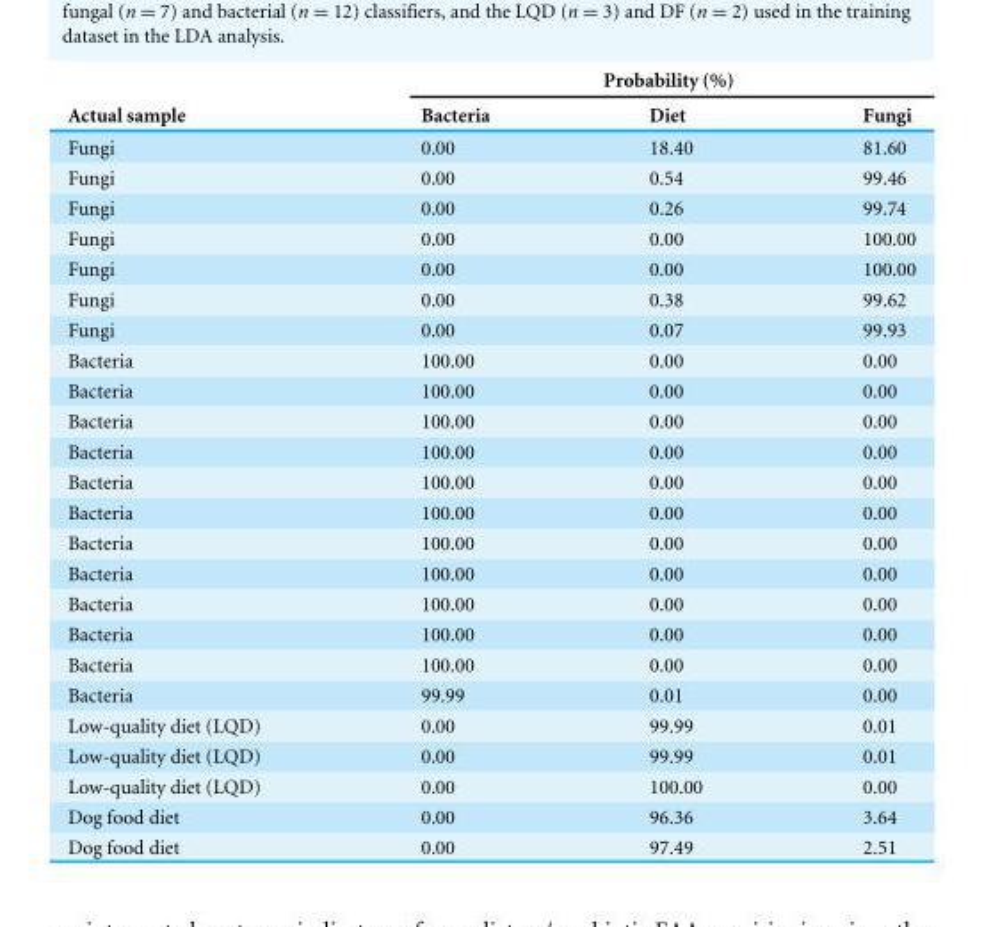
<table><thead><tr><td rowspan="2">Actual sample</td><td colspan="3">Probability (%)</td></tr><tr><td>Bacteria</td><td>Diet</td><td>Fungi</td></tr></thead><tbody><tr><td>Fungi</td><td>0.00</td><td>18.40</td><td>81.60</td></tr><tr><td>Fungi</td><td>0.00</td><td>0.54</td><td>99.46</td></tr><tr><td>Fungi</td><td>0.00</td><td>0.26</td><td>99.74</td></tr><tr><td>Fungi</td><td>0.00</td><td>0.00</td><td>100.00</td></tr><tr><td>Fungi</td><td>0.00</td><td>0.00</td><td>100.00</td></tr><tr><td>Fungi</td><td>0.00</td><td>0.38</td><td>99.62</td></tr><tr><td>Fungi</td><td>0.00</td><td>0.07</td><td>99.93</td></tr><tr><td>Bacteria</td><td>100.00</td><td>0.00</td><td>0.00</td></tr><tr><td>Bacteria</td><td>100.00</td><td>0.00</td><td>0.00</td></tr><tr><td>Bacteria</td><td>100.00</td><td>0.00</td><td>0.00</td></tr><tr><td>Bacteria</td><td>100.00</td><td>0.00</td><td>0.00</td></tr><tr><td>Bacteria</td><td>100.00</td><td>0.00</td><td>0.00</td></tr><tr><td>Bacteria</td><td>100.00</td><td>0.00</td><td>0.00</td></tr><tr><td>Bacteria</td><td>100.00</td><td>0.00</td><td>0.00</td></tr><tr><td>Bacteria</td><td>100.00</td><td>0.00</td><td>0.00</td></tr><tr><td>Bacteria</td><td>100.00</td><td>0.00</td><td>0.00</td></tr><tr><td>Bacteria</td><td>100.00</td><td>0.00</td><td>0.00</td></tr><tr><td>Bacteria</td><td>100.00</td><td>0.00</td><td>0.00</td></tr><tr><td>Bacteria</td><td>99.99</td><td>0.01</td><td>0.00</td></tr><tr><td>Low-quality diet (LQD)</td><td>0.00</td><td>99.99</td><td>0.01</td></tr><tr><td>Low-quality diet (LQD)</td><td>0.00</td><td>99.99</td><td>0.01</td></tr><tr><td>Low-quality diet (LQD)</td><td>0.00</td><td>100.00</td><td>0.00</td></tr><tr><td>Dog food diet</td><td>0.00</td><td>96.36</td><td>3.64</td></tr><tr><td>Dog food diet</td><td>0.00</td><td>97.49</td><td>2.51</td></tr></tbody></table>